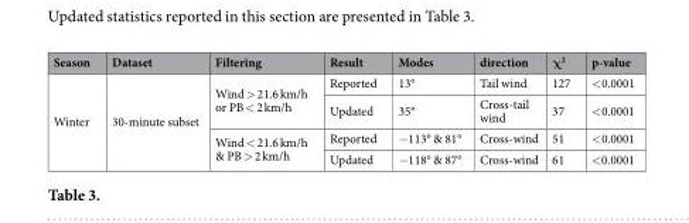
<table><thead><tr><td>Season</td><td>Dataset</td><td>Filtering</td><td>Result</td><td>Modes</td><td>direction</td><td>χ<sup>2</sup></td><td>p-value</td></tr></thead><tbody><tr><td rowspan="4">Winter</td><td rowspan="4">30-minute subset</td><td rowspan="2">Wind &gt; 21.6 km/h or PB &lt; 2 km/h</td><td>Reported</td><td>13°</td><td>Tail wind</td><td>127</td><td>&lt; 0.0001</td></tr><tr><td>Updated</td><td>35°</td><td>Cross-tail wind</td><td>37</td><td>&lt; 0.0001</td></tr><tr><td rowspan="2">Wind &lt; 21.6 km/h &amp; PB &gt; 2 km/h</td><td>Reported</td><td>− 113° &amp; 81°</td><td>Cross-wind</td><td>51</td><td>&lt; 0.0001</td></tr><tr><td>Updated</td><td>− 118° &amp; 87°</td><td>Cross-wind</td><td>61</td><td>&lt; 0.0001</td></tr></tbody></table>